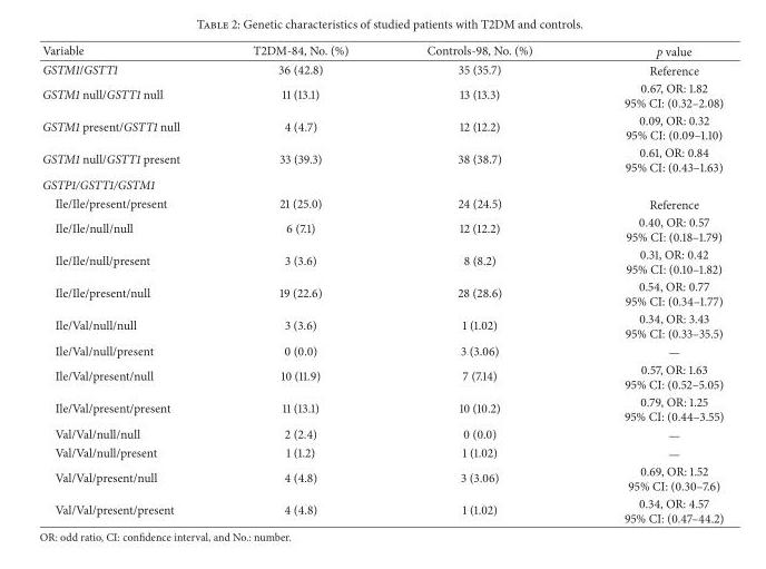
<table><thead><tr><td>Variable</td><td>T2DM-84, No. (%)</td><td>Controls-98, No. (%)</td><td>p value</td></tr></thead><tbody><tr><td>GSTM1/GSTT1</td><td>36 (42.8)</td><td>35 (35.7)</td><td>Reference</td></tr><tr><td>GSTM1 null/GSTT1 null</td><td>11 (13.1)</td><td>13 (13.3)</td><td>0.67, OR: 1.82 95% CI: (0.32–2.08)</td></tr><tr><td>GSTM1 present/GSTT1 null</td><td>4 (4.7)</td><td>12 (12.2)</td><td>0.09, OR: 0.32 95% CI: (0.09–1.10)</td></tr><tr><td>GSTM1 null/GSTT1 present</td><td>33 (39.3)</td><td>38 (38.7)</td><td>0.61, OR: 0.84 95% CI: (0.43–1.63)</td></tr><tr><td colspan="4">GSTP1/GSTT1/GSTM1</td></tr><tr><td>Ile/Ile/present/present</td><td>21 (25.0)</td><td>24 (24.5)</td><td>Reference</td></tr><tr><td>Ile/Ile/null/null</td><td>6 (7.1)</td><td>12 (12.2)</td><td>0.40, OR: 0.57 95% CI: (0.18–1.79)</td></tr><tr><td>Ile/Ile/null/present</td><td>3 (3.6)</td><td>8 (8.2)</td><td>0.31, OR: 0.42 95% CI: (0.10–1.82)</td></tr><tr><td>Ile/Ile/present/null</td><td>19 (22.6)</td><td>28 (28.6)</td><td>0.54, OR: 0.77 95% CI: (0.34–1.77)</td></tr><tr><td>Ile/Val/null/null</td><td>3 (3.6)</td><td>1 (1.02)</td><td>0.34, OR: 3.43 95% CI: (0.33–35.5)</td></tr><tr><td>Ile/Val/null/present</td><td>0 (0.0)</td><td>3 (3.06)</td><td>—</td></tr><tr><td>Ile/Val/present/null</td><td>10 (11.9)</td><td>7 (7.14)</td><td>0.57, OR: 1.63 95% CI: (0.52–5.05)</td></tr><tr><td>Ile/Val/present/present</td><td>11 (13.1)</td><td>10 (10.2)</td><td>0.79, OR: 1.25 95% CI: (0.44–3.55)</td></tr><tr><td>Val/Val/null/null</td><td>2 (2.4)</td><td>0 (0.0)</td><td>—</td></tr><tr><td>Val/Val/null/present</td><td>1 (1.2)</td><td>1 (1.02)</td><td>—</td></tr><tr><td>Val/Val/present/null</td><td>4 (4.8)</td><td>3 (3.06)</td><td>0.69, OR: 1.52 95% CI: (0.30–7.6)</td></tr><tr><td>Val/Val/present/present</td><td>4 (4.8)</td><td>1 (1.02)</td><td>0.34, OR: 4.57 95% CI: (0.47–44.2)</td></tr></tbody></table>